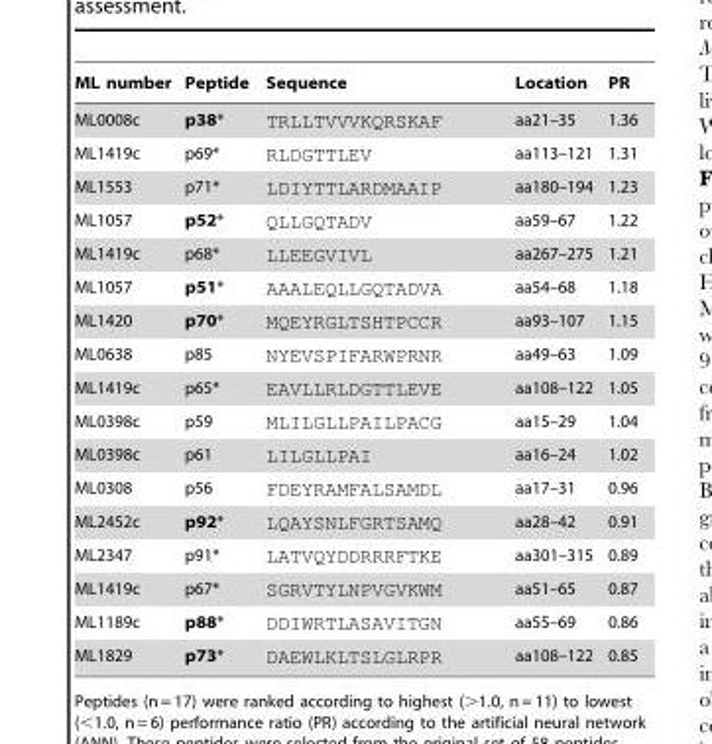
<table><thead><tr><td>ML number</td><td>Peptide</td><td>Sequence</td><td>Location</td><td>PR</td></tr></thead><tbody><tr><td>ML0008c</td><td>p38*</td><td>TRLLTVVVKQRSKAF</td><td>aa21–35</td><td>1.36</td></tr><tr><td>ML1419c</td><td>p69*</td><td>RLDGTTLEV</td><td>aa113–121</td><td>1.31</td></tr><tr><td>ML1553</td><td>p71*</td><td>LDIYTTLARDMAAIP</td><td>aa180–194</td><td>1.23</td></tr><tr><td>ML1057</td><td>p52*</td><td>QLLGQTADV</td><td>aa59–67</td><td>1.22</td></tr><tr><td>ML1419c</td><td>p68*</td><td>LLEEGVIVL</td><td>aa267–275</td><td>1.21</td></tr><tr><td>ML1057</td><td>p51*</td><td>AAALEQLLGQTADVA</td><td>aa54–68</td><td>1.18</td></tr><tr><td>ML1420</td><td>p70*</td><td>MQEYRGLTSHTPCCR</td><td>aa93–107</td><td>1.15</td></tr><tr><td>ML0638</td><td>p85</td><td>NYEVSPIFARWPRNR</td><td>aa49–63</td><td>1.09</td></tr><tr><td>ML1419c</td><td>p65*</td><td>EAVLLRLDGTTLEVE</td><td>aa108–122</td><td>1.05</td></tr><tr><td>ML0398c</td><td>p59</td><td>MLILGLLPAILPACG</td><td>aa15–29</td><td>1.04</td></tr><tr><td>ML0398c</td><td>p61</td><td>LILGLLPAI</td><td>aa16–24</td><td>1.02</td></tr><tr><td>ML0308</td><td>p56</td><td>FDEYRAMFALSAMDL</td><td>aa17–31</td><td>0.96</td></tr><tr><td>ML2452c</td><td>p92*</td><td>LQAYSNLFGRTSAMQ</td><td>aa28–42</td><td>0.91</td></tr><tr><td>ML2347</td><td>p91*</td><td>LATVQYDDRRRFTKE</td><td>aa301–315</td><td>0.89</td></tr><tr><td>ML1419c</td><td>p67*</td><td>SGRVTYLNPVGVKWM</td><td>aa51–65</td><td>0.87</td></tr><tr><td>ML1189c</td><td>p88*</td><td>DDIWRTLASAVITGN</td><td>aa55–69</td><td>0.86</td></tr><tr><td>ML1829</td><td>p73*</td><td>DAEWLKLTSLGLRPR</td><td>aa108–122</td><td>0.85</td></tr></tbody></table>